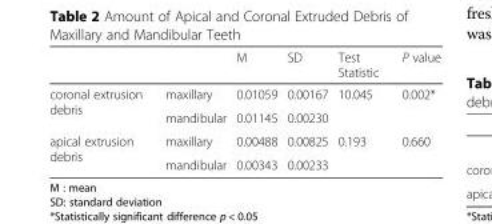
<table><thead><tr><td></td><td></td><td>M</td><td>SD</td><td>Test Statistic</td><td>P value</td></tr></thead><tbody><tr><td rowspan="2">coronal extrusion debris</td><td>maxillary</td><td>0.01059</td><td>0.00167</td><td rowspan="2">10.045</td><td rowspan="2">0.002*</td></tr><tr><td>mandibular</td><td>0.01145</td><td>0.00230</td></tr><tr><td rowspan="2">apical extrusion debris</td><td>maxillary</td><td>0.00488</td><td>0.00825</td><td rowspan="2">0.193</td><td rowspan="2">0.660</td></tr><tr><td>mandibular</td><td>0.00343</td><td>0.00233</td></tr></tbody></table>